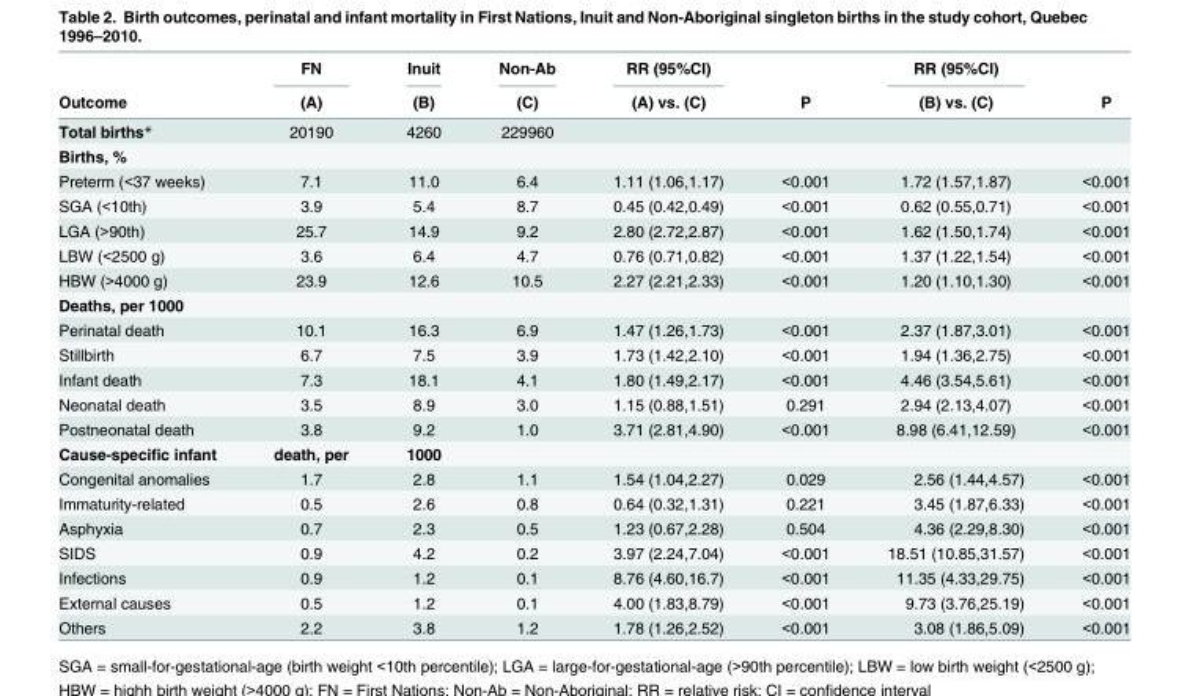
<table><thead><tr><td rowspan="2">Outcome</td><td rowspan="2">FN (A)</td><td rowspan="2">Inuit (B)</td><td rowspan="2">Non-Ab (C)</td><td rowspan="2">RR (95%CI) (A) vs. (C)</td><td rowspan="2">P</td><td rowspan="2">RR (95%CI) (B) vs. (C)</td><td rowspan="2">P</td></tr><tr></tr></thead><tbody><tr><td>Total births*</td><td>20190</td><td>4260</td><td>229960</td><td></td><td></td><td></td><td></td></tr><tr><td colspan="8">Births, %</td></tr><tr><td>Preterm (&lt;37 weeks)</td><td>7.1</td><td>11.0</td><td>6.4</td><td>1.11 (1.06,1.17)</td><td>&lt;0.001</td><td>1.72 (1.57,1.87)</td><td>&lt;0.001</td></tr><tr><td>SGA (&lt;10th)</td><td>3.9</td><td>5.4</td><td>8.7</td><td>0.45 (0.42,0.49)</td><td>&lt;0.001</td><td>0.62 (0.55,0.71)</td><td>&lt;0.001</td></tr><tr><td>LGA (&gt;90th)</td><td>25.7</td><td>14.9</td><td>9.2</td><td>2.80 (2.72,2.87)</td><td>&lt;0.001</td><td>1.62 (1.50,1.74)</td><td>&lt;0.001</td></tr><tr><td>LBW (&lt;2500 g)</td><td>3.6</td><td>6.4</td><td>4.7</td><td>0.76 (0.71,0.82)</td><td>&lt;0.001</td><td>1.37 (1.22,1.54)</td><td>&lt;0.001</td></tr><tr><td>HBW (&gt;4000 g)</td><td>23.9</td><td>12.6</td><td>10.5</td><td>2.27 (2.21,2.33)</td><td>&lt;0.001</td><td>1.20 (1.10,1.30)</td><td>&lt;0.001</td></tr><tr><td colspan="8">Deaths, per 1000</td></tr><tr><td>Perinatal death</td><td>10.1</td><td>16.3</td><td>6.9</td><td>1.47 (1.26,1.73)</td><td>&lt;0.001</td><td>2.37 (1.87,3.01)</td><td>&lt;0.001</td></tr><tr><td>Stillbirth</td><td>6.7</td><td>7.5</td><td>3.9</td><td>1.73 (1.42,2.10)</td><td>&lt;0.001</td><td>1.94 (1.36,2.75)</td><td>&lt;0.001</td></tr><tr><td>Infant death</td><td>7.3</td><td>18.1</td><td>4.1</td><td>1.80 (1.49,2.17)</td><td>&lt;0.001</td><td>4.46 (3.54,5.61)</td><td>&lt;0.001</td></tr><tr><td>Neonatal death</td><td>3.5</td><td>8.9</td><td>3.0</td><td>1.15 (0.88,1.51)</td><td>0.291</td><td>2.94 (2.13,4.07)</td><td>&lt;0.001</td></tr><tr><td>Postneonatal death</td><td>3.8</td><td>9.2</td><td>1.0</td><td>3.71 (2.81,4.90)</td><td>&lt;0.001</td><td>8.98 (6.41,12.59)</td><td>&lt;0.001</td></tr><tr><td>Cause-specific infant</td><td>death, per</td><td>1000</td><td></td><td></td><td></td><td></td><td></td></tr><tr><td>Congenital anomalies</td><td>1.7</td><td>2.8</td><td>1.1</td><td>1.54 (1.04,2.27)</td><td>0.029</td><td>2.56 (1.44,4.57)</td><td>&lt;0.001</td></tr><tr><td>Immaturity-related</td><td>0.5</td><td>2.6</td><td>0.8</td><td>0.64 (0.32,1.31)</td><td>0.221</td><td>3.45 (1.87,6.33)</td><td>&lt;0.001</td></tr><tr><td>Asphyxia</td><td>0.7</td><td>2.3</td><td>0.5</td><td>1.23 (0.67,2.28)</td><td>0.504</td><td>4.36 (2.29,8.30)</td><td>&lt;0.001</td></tr><tr><td>SIDS</td><td>0.9</td><td>4.2</td><td>0.2</td><td>3.97 (2.24,7.04)</td><td>&lt;0.001</td><td>18.51 (10.85,31.57)</td><td>&lt;0.001</td></tr><tr><td>Infections</td><td>0.9</td><td>1.2</td><td>0.1</td><td>8.76 (4.60,16.7)</td><td>&lt;0.001</td><td>11.35 (4.33,29.75)</td><td>&lt;0.001</td></tr><tr><td>External causes</td><td>0.5</td><td>1.2</td><td>0.1</td><td>4.00 (1.83,8.79)</td><td>&lt;0.001</td><td>9.73 (3.76,25.19)</td><td>&lt;0.001</td></tr><tr><td>Others</td><td>2.2</td><td>3.8</td><td>1.2</td><td>1.78 (1.26,2.52)</td><td>&lt;0.001</td><td>3.08 (1.86,5.09)</td><td>&lt;0.001</td></tr></tbody></table>